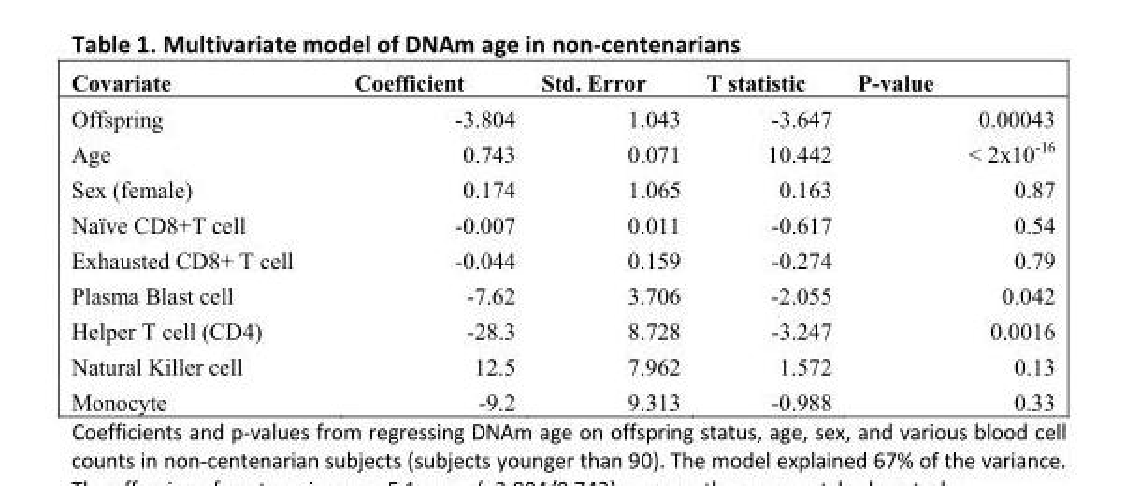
<table><thead><tr><td>Covariate</td><td>Coefficient</td><td>Std. Error</td><td>T statistic</td><td>P-value</td></tr></thead><tbody><tr><td>Offspring</td><td>-3.804</td><td>1.043</td><td>-3.647</td><td>0.00043</td></tr><tr><td>Age</td><td>0.743</td><td>0.071</td><td>10.442</td><td>&lt; 2x10-16</td></tr><tr><td>Sex (female)</td><td>0.174</td><td>1.065</td><td>0.163</td><td>0.87</td></tr><tr><td>Naïve CD8+T cell</td><td>-0.007</td><td>0.011</td><td>-0.617</td><td>0.54</td></tr><tr><td>Exhausted CD8+ T cell</td><td>-0.044</td><td>0.159</td><td>-0.274</td><td>0.79</td></tr><tr><td>Plasma Blast cell</td><td>-7.62</td><td>3.706</td><td>-2.055</td><td>0.042</td></tr><tr><td>Helper T cell (CD4)</td><td>-28.3</td><td>8.728</td><td>-3.247</td><td>0.0016</td></tr><tr><td>Natural Killer cell</td><td>12.5</td><td>7.962</td><td>1.572</td><td>0.13</td></tr><tr><td>Monocyte</td><td>-9.2</td><td>9.313</td><td>-0.988</td><td>0.33</td></tr></tbody></table>